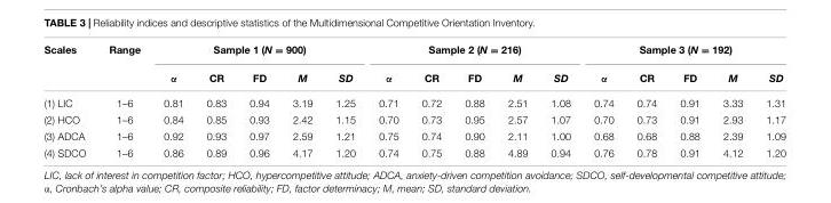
<table><thead><tr><td rowspan="2">Scales</td><td rowspan="2">Range</td><td colspan="5">Sample 1 (N = 900)</td><td colspan="5">Sample 2 (N = 216)</td><td colspan="5">Sample 3 (N = 192)</td></tr><tr><td>α</td><td>CR</td><td>FD</td><td>M</td><td>SD</td><td>α</td><td>CR</td><td>FD</td><td>M</td><td>SD</td><td>α</td><td>CR</td><td>FD</td><td>M</td><td>SD</td></tr></thead><tbody><tr><td>(1) LIC</td><td>1–6</td><td>0.81</td><td>0.83</td><td>0.94</td><td>3.19</td><td>1.25</td><td>0.71</td><td>0.72</td><td>0.88</td><td>2.51</td><td>1.08</td><td>0.74</td><td>0.74</td><td>0.91</td><td>3.33</td><td>1.31</td></tr><tr><td>(2) HCO</td><td>1–6</td><td>0.84</td><td>0.85</td><td>0.93</td><td>2.42</td><td>1.15</td><td>0.70</td><td>0.73</td><td>0.95</td><td>2.57</td><td>1.07</td><td>0.70</td><td>0.73</td><td>0.91</td><td>2.93</td><td>1.17</td></tr><tr><td>(3) ADCA</td><td>1–6</td><td>0.92</td><td>0.93</td><td>0.97</td><td>2.59</td><td>1.21</td><td>0.75</td><td>0.74</td><td>0.90</td><td>2.11</td><td>1.00</td><td>0.68</td><td>0.68</td><td>0.88</td><td>2.39</td><td>1.09</td></tr><tr><td>(4) SDCO</td><td>1–6</td><td>0.86</td><td>0.89</td><td>0.96</td><td>4.17</td><td>1.20</td><td>0.74</td><td>0.75</td><td>0.88</td><td>4.89</td><td>0.94</td><td>0.76</td><td>0.78</td><td>0.91</td><td>4.12</td><td>1.20</td></tr></tbody></table>